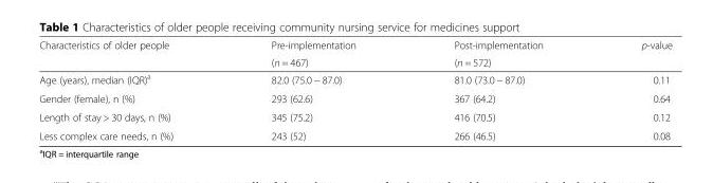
<table><thead><tr><td rowspan="2">Characteristics of older people</td><td rowspan="2">Pre-implementation (n = 467)</td><td rowspan="2">Post-implementation (n = 572)</td><td rowspan="2">p-value</td></tr><tr></tr></thead><tbody><tr><td>Age (years), median (IQR)<sup>a</sup></td><td>82.0 (75.0 − 87.0)</td><td>81.0 (73.0 − 87.0)</td><td>0.11</td></tr><tr><td>Gender (female), n (%)</td><td>293 (62.6)</td><td>367 (64.2)</td><td>0.64</td></tr><tr><td>Length of stay &gt; 30 days, n (%)</td><td>345 (75.2)</td><td>416 (70.5)</td><td>0.12</td></tr><tr><td>Less complex care needs, n (%)</td><td>243 (52)</td><td>266 (46.5)</td><td>0.08</td></tr></tbody></table>